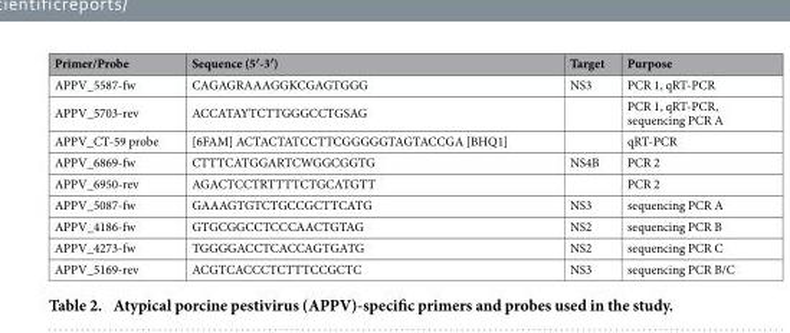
<table><thead><tr><td>Primer/Probe</td><td>Sequence (5′-3′)</td><td>Target</td><td>Purpose</td></tr></thead><tbody><tr><td>APPV_5587-fw</td><td>CAGAGRAAAGGKCGAGTGGG</td><td>NS3</td><td>PCR 1, qRT-PCR</td></tr><tr><td>APPV_5703-rev</td><td>ACCATAYTCTTGGGCCTGSAG</td><td></td><td>PCR 1, qRT-PCR, sequencing PCR A</td></tr><tr><td>APPV_CT-59 probe</td><td>[6FAM] ACTACTATCCTTCGGGGGTAGTACCGA [BHQ1]</td><td></td><td>qRT-PCR</td></tr><tr><td>APPV_6869-fw</td><td>CTTTCATGGARTCWGGCGGTG</td><td>NS4B</td><td>PCR 2</td></tr><tr><td>APPV_6950-rev</td><td>AGACTCCTRTTTTCTGCATGTT</td><td></td><td>PCR 2</td></tr><tr><td>APPV_5087-fw</td><td>GAAAGTGTCTGCCGCTTCATG</td><td>NS3</td><td>sequencing PCR A</td></tr><tr><td>APPV_4186-fw</td><td>GTGCGGCCTCCCAACTGTAG</td><td>NS2</td><td>sequencing PCR B</td></tr><tr><td>APPV_4273-fw</td><td>TGGGGACCTCACCAGTGATG</td><td>NS2</td><td>sequencing PCR C</td></tr><tr><td>APPV_5169-rev</td><td>ACGTCACCCTCTTTCCGCTC</td><td>NS3</td><td>sequencing PCR B/C</td></tr></tbody></table>